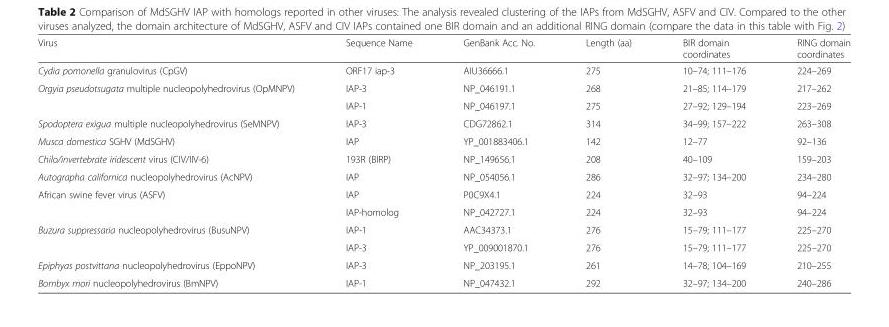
<table><thead><tr><td>Virus</td><td>Sequence Name</td><td>GenBank Acc. No.</td><td>Length (aa)</td><td>BIR domain coordinates</td><td>RING domain coordinates</td></tr></thead><tbody><tr><td>Cydia pomonella granulovirus (CpGV)</td><td>ORF17 iap-3</td><td>AIU36666.1</td><td>275</td><td>10–74; 111–176</td><td>224–269</td></tr><tr><td rowspan="2">Orgyia pseudotsugata multiple nucleopolyhedrovirus (OpMNPV)</td><td>IAP-3</td><td>NP_046191.1</td><td>268</td><td>21–85; 114–179</td><td>217–262</td></tr><tr><td>IAP-1</td><td>NP_046197.1</td><td>275</td><td>27–92; 129–194</td><td>223–269</td></tr><tr><td>Spodoptera exigua multiple nucleopolyhedrovirus (SeMNPV)</td><td>IAP-3</td><td>CDG72862.1</td><td>314</td><td>34–99; 157–222</td><td>263–308</td></tr><tr><td>Musca domestica SGHV (MdSGHV)</td><td>IAP</td><td>YP_001883406.1</td><td>142</td><td>12–77</td><td>92–136</td></tr><tr><td>Chilo/invertebrate iridescent virus (CIV/IIV-6)</td><td>193R (BIRP)</td><td>NP_149656.1</td><td>208</td><td>40–109</td><td>159–203</td></tr><tr><td>Autographa californica nucleopolyhedrovirus (AcNPV)</td><td>IAP</td><td>NP_054056.1</td><td>286</td><td>32–97; 134–200</td><td>234–280</td></tr><tr><td rowspan="2">African swine fever virus (ASFV)</td><td>IAP</td><td>P0C9X4.1</td><td>224</td><td>32–93</td><td>94–224</td></tr><tr><td>IAP-homolog</td><td>NP_042727.1</td><td>224</td><td>32–93</td><td>94–224</td></tr><tr><td rowspan="2">Buzura suppressaria nucleopolyhedrovirus (BusuNPV)</td><td>IAP-1</td><td>AAC34373.1</td><td>276</td><td>15–79; 111–177</td><td>225–270</td></tr><tr><td>IAP-3</td><td>YP_009001870.1</td><td>276</td><td>15–79; 111–177</td><td>225–270</td></tr><tr><td>Epiphyas postvittana nucleopolyhedrovirus (EppoNPV)</td><td>IAP-3</td><td>NP_203195.1</td><td>261</td><td>14–78; 104–169</td><td>210–255</td></tr><tr><td>Bombyx mori nucleopolyhedrovirus (BmNPV)</td><td>IAP-1</td><td>NP_047432.1</td><td>292</td><td>32–97; 134–200</td><td>240–286</td></tr></tbody></table>